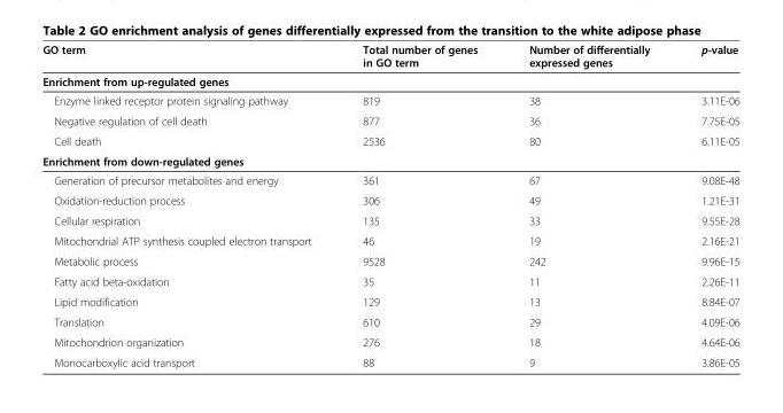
<table><thead><tr><td>GO term</td><td>Total number of genes in GO term</td><td>Number of differentially expressed genes</td><td>p-value</td></tr></thead><tbody><tr><td colspan="4">Enrichment from up-regulated genes</td></tr><tr><td>Enzyme linked receptor protein signaling pathway</td><td>819</td><td>38</td><td>3.11E-06</td></tr><tr><td>Negative regulation of cell death</td><td>877</td><td>36</td><td>7.75E-05</td></tr><tr><td>Cell death</td><td>2536</td><td>80</td><td>6.11E-05</td></tr><tr><td colspan="4">Enrichment from down-regulated genes</td></tr><tr><td>Generation of precursor metabolites and energy</td><td>361</td><td>67</td><td>9.08E-48</td></tr><tr><td>Oxidation-reduction process</td><td>306</td><td>49</td><td>1.21E-31</td></tr><tr><td>Cellular respiration</td><td>135</td><td>33</td><td>9.55E-28</td></tr><tr><td>Mitochondrial ATP synthesis coupled electron transport</td><td>46</td><td>19</td><td>2.16E-21</td></tr><tr><td>Metabolic process</td><td>9528</td><td>242</td><td>9.96E-15</td></tr><tr><td>Fatty acid beta-oxidation</td><td>35</td><td>11</td><td>2.26E-11</td></tr><tr><td>Lipid modification</td><td>129</td><td>13</td><td>8.84E-07</td></tr><tr><td>Translation</td><td>610</td><td>29</td><td>4.09E-06</td></tr><tr><td>Mitochondrion organization</td><td>276</td><td>18</td><td>4.64E-06</td></tr><tr><td>Monocarboxylic acid transport</td><td>88</td><td>9</td><td>3.86E-05</td></tr></tbody></table>